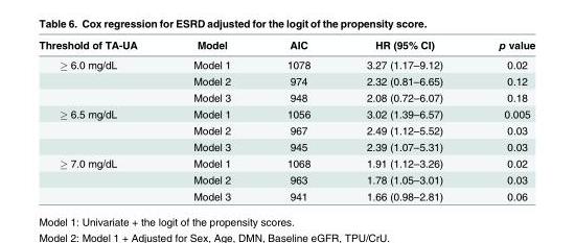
<table><thead><tr><td>Threshold of TA-UA</td><td>Model</td><td>AIC</td><td>HR (95% CI)</td><td>p value</td></tr></thead><tbody><tr><td rowspan="3">≥ 6.0 mg/dL</td><td>Model 1</td><td>1078</td><td>3.27 (1.17–9.12)</td><td>0.02</td></tr><tr><td>Model 2</td><td>974</td><td>2.32 (0.81–6.65)</td><td>0.12</td></tr><tr><td>Model 3</td><td>948</td><td>2.08 (0.72–6.07)</td><td>0.18</td></tr><tr><td rowspan="3">≥ 6.5 mg/dL</td><td>Model 1</td><td>1056</td><td>3.02 (1.39–6.57)</td><td>0.005</td></tr><tr><td>Model 2</td><td>967</td><td>2.49 (1.12–5.52)</td><td>0.03</td></tr><tr><td>Model 3</td><td>945</td><td>2.39 (1.07–5.31)</td><td>0.03</td></tr><tr><td rowspan="3">≥ 7.0 mg/dL</td><td>Model 1</td><td>1068</td><td>1.91 (1.12–3.26)</td><td>0.02</td></tr><tr><td>Model 2</td><td>963</td><td>1.78 (1.05–3.01)</td><td>0.03</td></tr><tr><td>Model 3</td><td>941</td><td>1.66 (0.98–2.81)</td><td>0.06</td></tr></tbody></table>